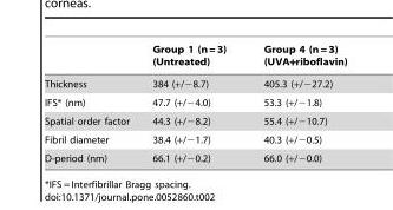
<table><thead><tr><td></td><td>Group 1 (n = 3) (Untreated)</td><td>Group 4 (n = 3) (UVA+riboflavin)</td></tr></thead><tbody><tr><td>Thickness</td><td>384 (+/−8.7)</td><td>405.3 (+/−27.2)</td></tr><tr><td>IFS* (nm)</td><td>47.7 (+/−4.0)</td><td>53.3 (+/−1.8)</td></tr><tr><td>Spatial order factor</td><td>44.3 (+/−8.2)</td><td>55.4 (+/−10.7)</td></tr><tr><td>Fibril diameter</td><td>38.4 (+/−1.7)</td><td>40.3 (+/−0.5)</td></tr><tr><td>D-period (nm)</td><td>66.1 (+/−0.2)</td><td>66.0 (+/−0.0)</td></tr></tbody></table>